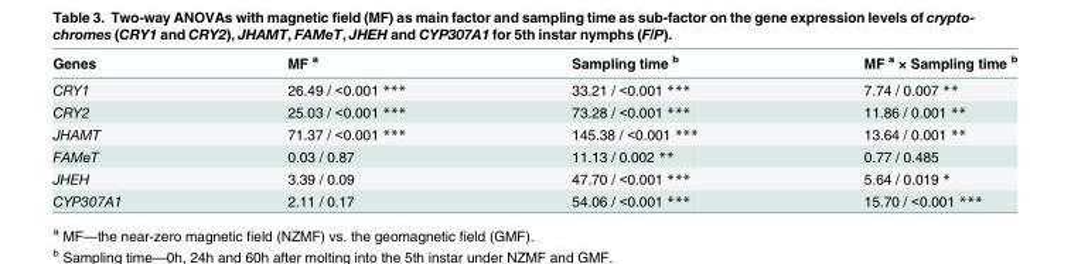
<table><thead><tr><td>Genes</td><td>MF <sup>a</sup></td><td>Sampling time <sup>b</sup></td><td>MF <sup>a</sup> × Sampling time <sup>b</sup></td></tr></thead><tbody><tr><td>CRY1</td><td>26.49 / &lt;0.001 ***</td><td>33.21 / &lt;0.001 ***</td><td>7.74 / 0.007 **</td></tr><tr><td>CRY2</td><td>25.03 / &lt;0.001 ***</td><td>73.28 / &lt;0.001 ***</td><td>11.86 / 0.001 **</td></tr><tr><td>JHAMT</td><td>71.37 / &lt;0.001 ***</td><td>145.38 / &lt;0.001 ***</td><td>13.64 / 0.001 **</td></tr><tr><td>FAMeT</td><td>0.03 / 0.87</td><td>11.13 / 0.002 **</td><td>0.77 / 0.485</td></tr><tr><td>JHEH</td><td>3.39 / 0.09</td><td>47.70 / &lt;0.001 ***</td><td>5.64 / 0.019 *</td></tr><tr><td>CYP307A1</td><td>2.11 / 0.17</td><td>54.06 / &lt;0.001 ***</td><td>15.70 / &lt;0.001 ***</td></tr></tbody></table>